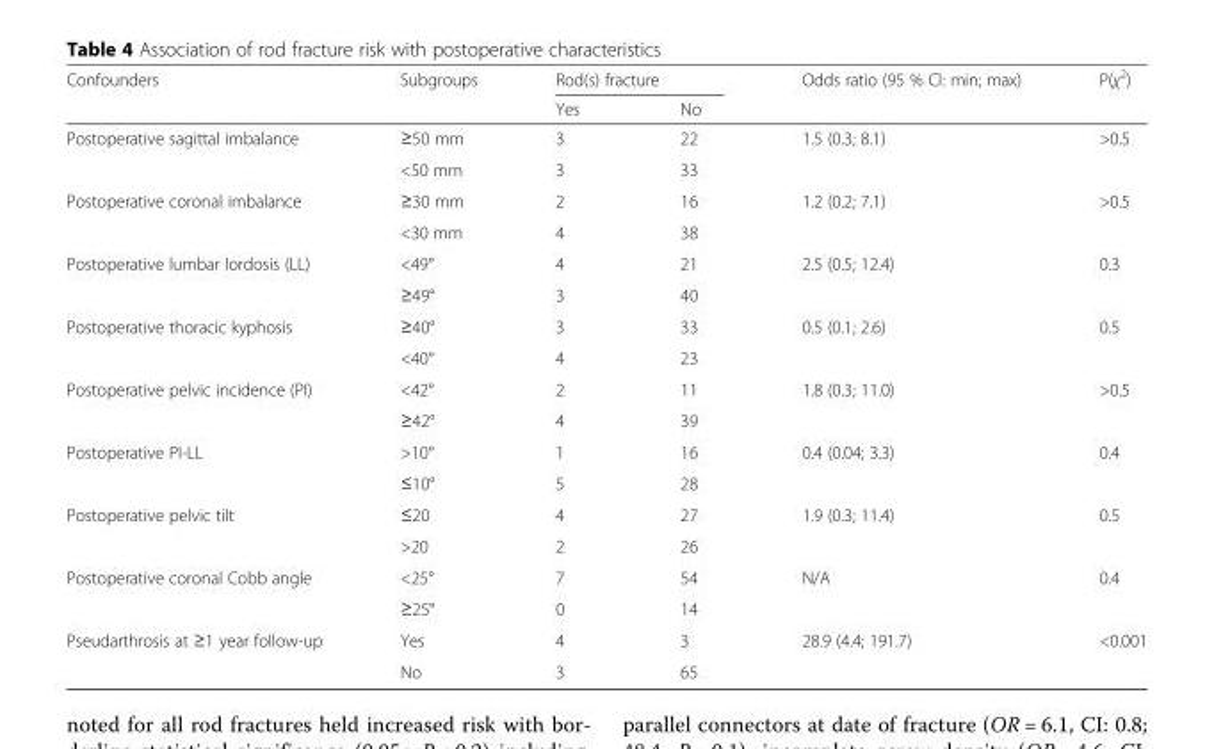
<table><thead><tr><td rowspan="2">Confounders</td><td rowspan="2">Subgroups</td><td colspan="2">Rod(s) fracture</td><td rowspan="2">Odds ratio (95 % Cl: min; max)</td><td rowspan="2">P(χ<sup>2</sup>)</td></tr><tr><td>Yes</td><td>No</td></tr></thead><tbody><tr><td rowspan="2">Postoperative sagittal imbalance</td><td>≥50 mm</td><td>3</td><td>22</td><td>1.5 (0.3; 8.1)</td><td>&gt;0.5</td></tr><tr><td>&lt;50 mm</td><td>3</td><td>33</td><td></td><td></td></tr><tr><td rowspan="2">Postoperative coronal imbalance</td><td>≥30 mm</td><td>2</td><td>16</td><td>1.2 (0.2; 7.1)</td><td>&gt;0.5</td></tr><tr><td>&lt;30 mm</td><td>4</td><td>38</td><td></td><td></td></tr><tr><td rowspan="2">Postoperative lumbar lordosis (LL)</td><td>&lt;49°</td><td>4</td><td>21</td><td>2.5 (0.5; 12.4)</td><td>0.3</td></tr><tr><td>≥49°</td><td>3</td><td>40</td><td></td><td></td></tr><tr><td rowspan="2">Postoperative thoracic kyphosis</td><td>≥40°</td><td>3</td><td>33</td><td>0.5 (0.1; 2.6)</td><td>0.5</td></tr><tr><td>&lt;40°</td><td>4</td><td>23</td><td></td><td></td></tr><tr><td rowspan="2">Postoperative pelvic incidence (PI)</td><td>&lt;42°</td><td>2</td><td>11</td><td>1.8 (0.3; 11.0)</td><td>&gt;0.5</td></tr><tr><td>≥42°</td><td>4</td><td>39</td><td></td><td></td></tr><tr><td rowspan="2">Postoperative PI-LL</td><td>&gt;10°</td><td>1</td><td>16</td><td>0.4 (0.04; 3.3)</td><td>0.4</td></tr><tr><td>≤10°</td><td>5</td><td>28</td><td></td><td></td></tr><tr><td rowspan="2">Postoperative pelvic tilt</td><td>≤20</td><td>4</td><td>27</td><td>1.9 (0.3; 11.4)</td><td>0.5</td></tr><tr><td>&gt;20</td><td>2</td><td>26</td><td></td><td></td></tr><tr><td rowspan="2">Postoperative coronal Cobb angle</td><td>&lt;25°</td><td>7</td><td>54</td><td>N/A</td><td>0.4</td></tr><tr><td>≥25°</td><td>0</td><td>14</td><td></td><td></td></tr><tr><td rowspan="2">Pseudarthrosis at ≥1 year follow-up</td><td>Yes</td><td>4</td><td>3</td><td>28.9 (4.4; 191.7)</td><td>&lt;0.001</td></tr><tr><td>No</td><td>3</td><td>65</td><td></td><td></td></tr></tbody></table>